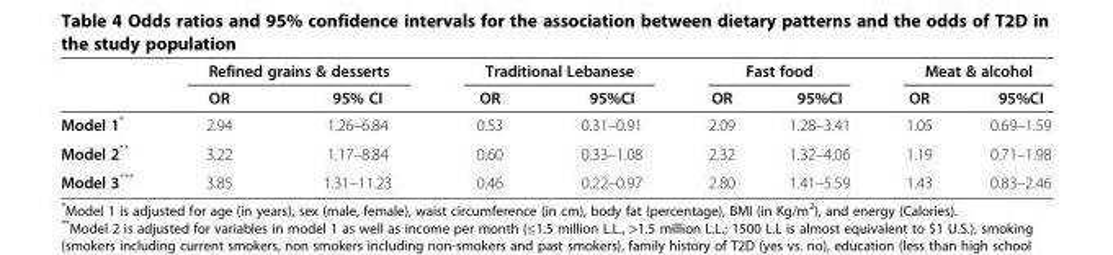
<table><thead><tr><td rowspan="2"></td><td colspan="2">Refined grains &amp; desserts</td><td colspan="2">Traditional Lebanese</td><td colspan="2">Fast food</td><td colspan="2">Meat &amp; alcohol</td></tr><tr><td>OR</td><td>95% CI</td><td>OR</td><td>95%CI</td><td>OR</td><td>95%CI</td><td>OR</td><td>95%CI</td></tr></thead><tbody><tr><td>Model 1*</td><td>2.94</td><td>1.26–6.84</td><td>0.53</td><td>0.31–0.91</td><td>2.09</td><td>1.28–3.41</td><td>1.05</td><td>0.69–1.59</td></tr><tr><td>Model 2**</td><td>3.22</td><td>1.17–8.84</td><td>0.60</td><td>0.33–1.08</td><td>2.32</td><td>1.32–4.06</td><td>1.19</td><td>0.71–1.98</td></tr><tr><td>Model 3***</td><td>3.85</td><td>1.31–11.23</td><td>0.46</td><td>0.22–0.97</td><td>2.80</td><td>1.41–5.59</td><td>1.43</td><td>0.83–2.46</td></tr></tbody></table>